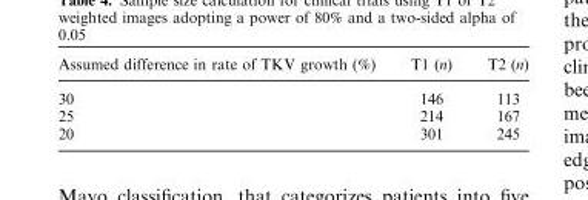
<table><thead><tr><td>Assumed difference in rate of TKV growth (%)</td><td>T1 (n)</td><td>T2 (n)</td></tr></thead><tbody><tr><td>30</td><td>146</td><td>113</td></tr><tr><td>25</td><td>214</td><td>167</td></tr><tr><td>20</td><td>301</td><td>245</td></tr></tbody></table>